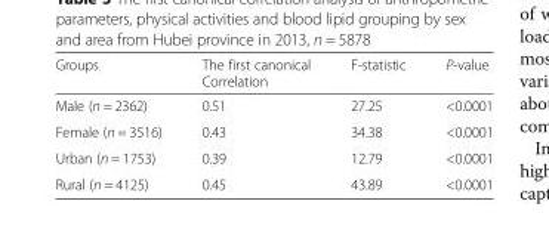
<table><thead><tr><td>Groups</td><td>The first canonical Correlation</td><td>F-statistic</td><td>P-value</td></tr></thead><tbody><tr><td>Male (n = 2362)</td><td>0.51</td><td>27.25</td><td>&lt;0.0001</td></tr><tr><td>Female (n = 3516)</td><td>0.43</td><td>34.38</td><td>&lt;0.0001</td></tr><tr><td>Urban (n = 1753)</td><td>0.39</td><td>12.79</td><td>&lt;0.0001</td></tr><tr><td>Rural (n = 4125)</td><td>0.45</td><td>43.89</td><td>&lt;0.0001</td></tr></tbody></table>